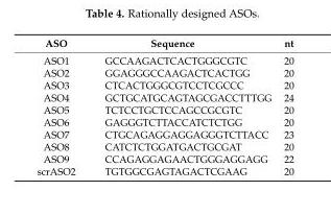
<table><thead><tr><td>ASO</td><td>Sequence</td><td>nt</td></tr></thead><tbody><tr><td>ASO1</td><td>GCCAAGACTCACTGGGCGTC</td><td>20</td></tr><tr><td>ASO2</td><td>GGAGGGCCAAGACTCACTGG</td><td>20</td></tr><tr><td>ASO3</td><td>CTCACTGGGCGTCCTCGCCC</td><td>20</td></tr><tr><td>ASO4</td><td>GCTGCATGCAGTAGCGACCTTTGG</td><td>24</td></tr><tr><td>ASO5</td><td>TCTCCTGCTCCAGCCGCGTC</td><td>20</td></tr><tr><td>ASO6</td><td>GAGGGTCTTACCATCTCTGG</td><td>20</td></tr><tr><td>ASO7</td><td>CTGCAGAGGAGGAGGGTCTTACC</td><td>23</td></tr><tr><td>ASO8</td><td>CATCTCTGGATGACTGCGAT</td><td>20</td></tr><tr><td>ASO9</td><td>CCAGAGGAGAACTGGGAGGAGG</td><td>22</td></tr><tr><td>scrASO2</td><td>TGTGGCGAGTAGACTCGAAG</td><td>20</td></tr></tbody></table>